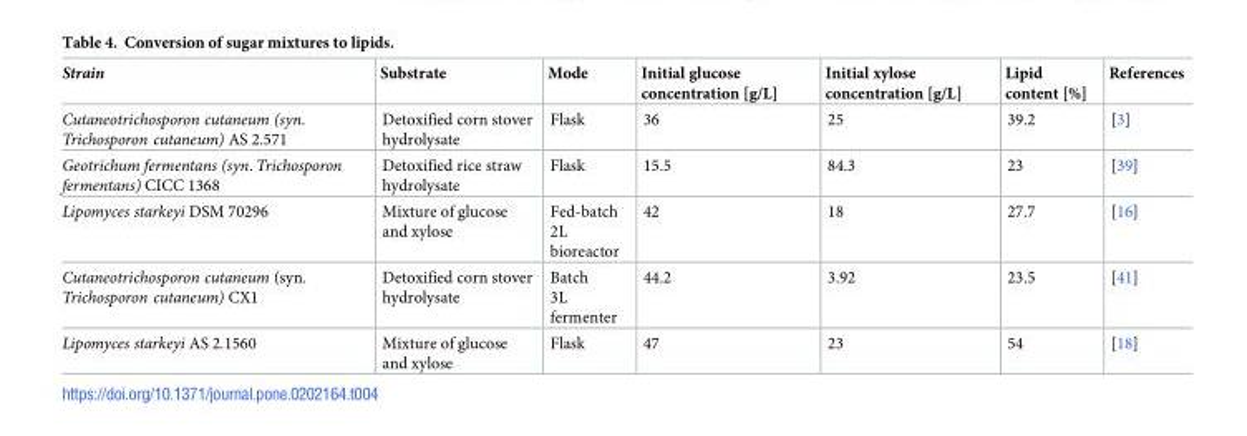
<table><thead><tr><td>Strain</td><td>Substrate</td><td>Mode</td><td>Initial glucose concentration [g/L]</td><td>Initial xylose concentration [g/L]</td><td>Lipid content [%]</td><td>References</td></tr></thead><tbody><tr><td>Cutaneotrichosporon cutaneum (syn. Trichosporon cutaneum) AS 2.571</td><td>Detoxified corn stover hydrolysate</td><td>Flask</td><td>36</td><td>25</td><td>39.2</td><td>[3]</td></tr><tr><td>Geotrichum fermentans (syn. Trichosporon fermentans) CICC 1368</td><td>Detoxified rice straw hydrolysate</td><td>Flask</td><td>15.5</td><td>84.3</td><td>23</td><td>[39]</td></tr><tr><td>Lipomyces starkeyi DSM 70296</td><td>Mixture of glucose and xylose</td><td>Fed-batch 2L bioreactor</td><td>42</td><td>18</td><td>27.7</td><td>[16]</td></tr><tr><td>Cutaneotrichosporon cutaneum (syn. Trichosporon cutaneum) CX1</td><td>Detoxified corn stover hydrolysate</td><td>Batch 3L fermenter</td><td>44.2</td><td>3.92</td><td>23.5</td><td>[41]</td></tr><tr><td>Lipomyces starkeyi AS 2.1560</td><td>Mixture of glucose and xylose</td><td>Flask</td><td>47</td><td>23</td><td>54</td><td>[18]</td></tr></tbody></table>